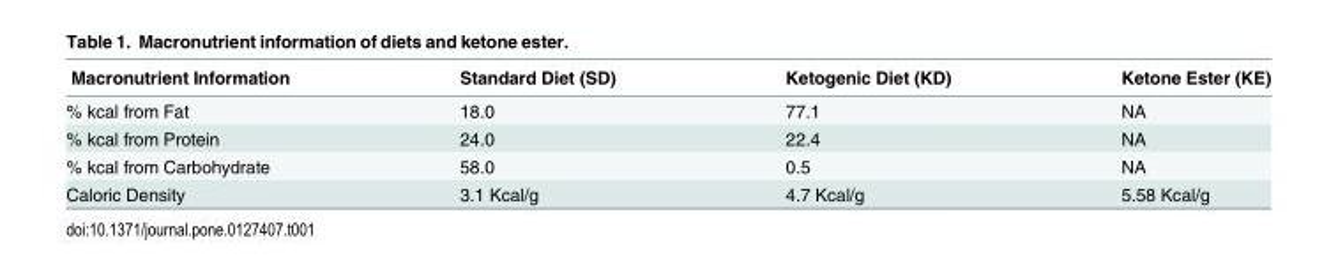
<table><thead><tr><td>Macronutrient Information</td><td>Standard Diet (SD)</td><td>Ketogenic Diet (KD)</td><td>Ketone Ester (KE)</td></tr></thead><tbody><tr><td>% kcal from Fat</td><td>18.0</td><td>77.1</td><td>NA</td></tr><tr><td>% kcal from Protein</td><td>24.0</td><td>22.4</td><td>NA</td></tr><tr><td>% kcal from Carbohydrate</td><td>58.0</td><td>0.5</td><td>NA</td></tr><tr><td>Caloric Density</td><td>3.1 Kcal/g</td><td>4.7 Kcal/g</td><td>5.58 Kcal/g</td></tr></tbody></table>